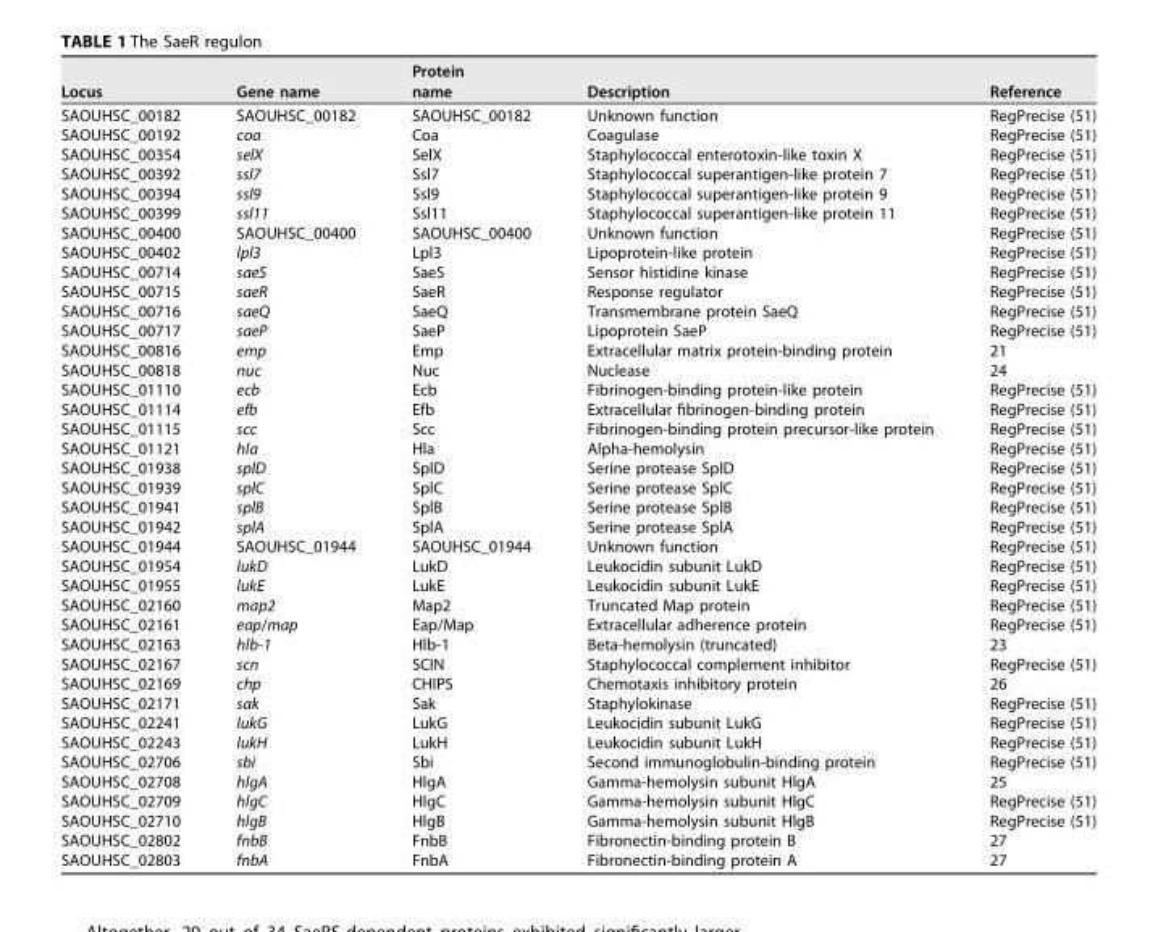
<table><thead><tr><td>Locus</td><td>Gene name</td><td>Protein name</td><td>Description</td><td>Reference</td></tr></thead><tbody><tr><td>SAOUHSC_00182</td><td>SAOUHSC_00182</td><td>SAOUHSC_00182</td><td>Unknown function</td><td>RegPrecise (51)</td></tr><tr><td>SAOUHSC_00192</td><td>coa</td><td>Coa</td><td>Coagulase</td><td>RegPrecise (51)</td></tr><tr><td>SAOUHSC_00354</td><td>selX</td><td>SelX</td><td>Staphylococcal enterotoxin-like toxin X</td><td>RegPrecise (51)</td></tr><tr><td>SAOUHSC_00392</td><td>ssl7</td><td>Ssl7</td><td>Staphylococcal superantigen-like protein 7</td><td>RegPrecise (51)</td></tr><tr><td>SAOUHSC_00394</td><td>ssl9</td><td>Ssl9</td><td>Staphylococcal superantigen-like protein 9</td><td>RegPrecise (51)</td></tr><tr><td>SAOUHSC_00399</td><td>ssl11</td><td>Ssl11</td><td>Staphylococcal superantigen-like protein 11</td><td>RegPrecise (51)</td></tr><tr><td>SAOUHSC_00400</td><td>SAOUHSC_00400</td><td>SAOUHSC_00400</td><td>Unknown function</td><td>RegPrecise (51)</td></tr><tr><td>SAOUHSC_00402</td><td>lpl3</td><td>Lpl3</td><td>Lipoprotein-like protein</td><td>RegPrecise (51)</td></tr><tr><td>SAOUHSC_00714</td><td>saeS</td><td>SaeS</td><td>Sensor histidine kinase</td><td>RegPrecise (51)</td></tr><tr><td>SAOUHSC_00715</td><td>saeR</td><td>SaeR</td><td>Response regulator</td><td>RegPrecise (51)</td></tr><tr><td>SAOUHSC_00716</td><td>saeQ</td><td>SaeQ</td><td>Transmembrane protein SaeQ</td><td>RegPrecise (51)</td></tr><tr><td>SAOUHSC_00717</td><td>saeP</td><td>SaeP</td><td>Lipoprotein SaeP</td><td>RegPrecise (51)</td></tr><tr><td>SAOUHSC_00816</td><td>emp</td><td>Emp</td><td>Extracellular matrix protein-binding protein</td><td>21</td></tr><tr><td>SAOUHSC_00818</td><td>nuc</td><td>Nuc</td><td>Nuclease</td><td>24</td></tr><tr><td>SAOUHSC_01110</td><td>ecb</td><td>Ecb</td><td>Fibrinogen-binding protein-like protein</td><td>RegPrecise (51)</td></tr><tr><td>SAOUHSC_01114</td><td>efb</td><td>Efb</td><td>Extracellular fibrinogen-binding protein</td><td>RegPrecise (51)</td></tr><tr><td>SAOUHSC_01115</td><td>scc</td><td>Scc</td><td>Fibrinogen-binding protein precursor-like protein</td><td>RegPrecise (51)</td></tr><tr><td>SAOUHSC_01121</td><td>hla</td><td>Hla</td><td>Alpha-hemolysin</td><td>RegPrecise (51)</td></tr><tr><td>SAOUHSC_01938</td><td>splD</td><td>SplD</td><td>Serine protease SplD</td><td>RegPrecise (51)</td></tr><tr><td>SAOUHSC_01939</td><td>splC</td><td>SplC</td><td>Serine protease SplC</td><td>RegPrecise (51)</td></tr><tr><td>SAOUHSC_01941</td><td>splB</td><td>SplB</td><td>Serine protease SplB</td><td>RegPrecise (51)</td></tr><tr><td>SAOUHSC_01942</td><td>splA</td><td>SplA</td><td>Serine protease SplA</td><td>RegPrecise (51)</td></tr><tr><td>SAOUHSC_01944</td><td>SAOUHSC_01944</td><td>SAOUHSC_01944</td><td>Unknown function</td><td>RegPrecise (51)</td></tr><tr><td>SAOUHSC_01954</td><td>lukD</td><td>LukD</td><td>Leukocidin subunit LukD</td><td>RegPrecise (51)</td></tr><tr><td>SAOUHSC_01955</td><td>lukE</td><td>LukE</td><td>Leukocidin subunit LukE</td><td>RegPrecise (51)</td></tr><tr><td>SAOUHSC_02160</td><td>map2</td><td>Map2</td><td>Truncated Map protein</td><td>RegPrecise (51)</td></tr><tr><td>SAOUHSC_02161</td><td>eap/map</td><td>Eap/Map</td><td>Extracellular adherence protein</td><td>RegPrecise (51)</td></tr><tr><td>SAOUHSC_02163</td><td>hlb-1</td><td>Hlb-1</td><td>Beta-hemolysin (truncated)</td><td>23</td></tr><tr><td>SAOUHSC_02167</td><td>scn</td><td>SCIN</td><td>Staphylococcal complement inhibitor</td><td>RegPrecise (51)</td></tr><tr><td>SAOUHSC_02169</td><td>chp</td><td>CHIPS</td><td>Chemotaxis inhibitory protein</td><td>26</td></tr><tr><td>SAOUHSC_02171</td><td>sak</td><td>Sak</td><td>Staphylokinase</td><td>RegPrecise (51)</td></tr><tr><td>SAOUHSC_02241</td><td>lukG</td><td>LukG</td><td>Leukocidin subunit LukG</td><td>RegPrecise (51)</td></tr><tr><td>SAOUHSC_02243</td><td>lukH</td><td>LukH</td><td>Leukocidin subunit LukH</td><td>RegPrecise (51)</td></tr><tr><td>SAOUHSC_02706</td><td>sbi</td><td>Sbi</td><td>Second immunoglobulin-binding protein</td><td>RegPrecise (51)</td></tr><tr><td>SAOUHSC_02708</td><td>hlgA</td><td>HlgA</td><td>Gamma-hemolysin subunit HlgA</td><td>25</td></tr><tr><td>SAOUHSC_02709</td><td>hlgC</td><td>HlgC</td><td>Gamma-hemolysin subunit HlgC</td><td>RegPrecise (51)</td></tr><tr><td>SAOUHSC_02710</td><td>hlgB</td><td>HlgB</td><td>Gamma-hemolysin subunit HlgB</td><td>RegPrecise (51)</td></tr><tr><td>SAOUHSC_02802</td><td>fnbB</td><td>FnbB</td><td>Fibronectin-binding protein B</td><td>27</td></tr><tr><td>SAOUHSC_02803</td><td>fnbA</td><td>FnbA</td><td>Fibronectin-binding protein A</td><td>27</td></tr></tbody></table>